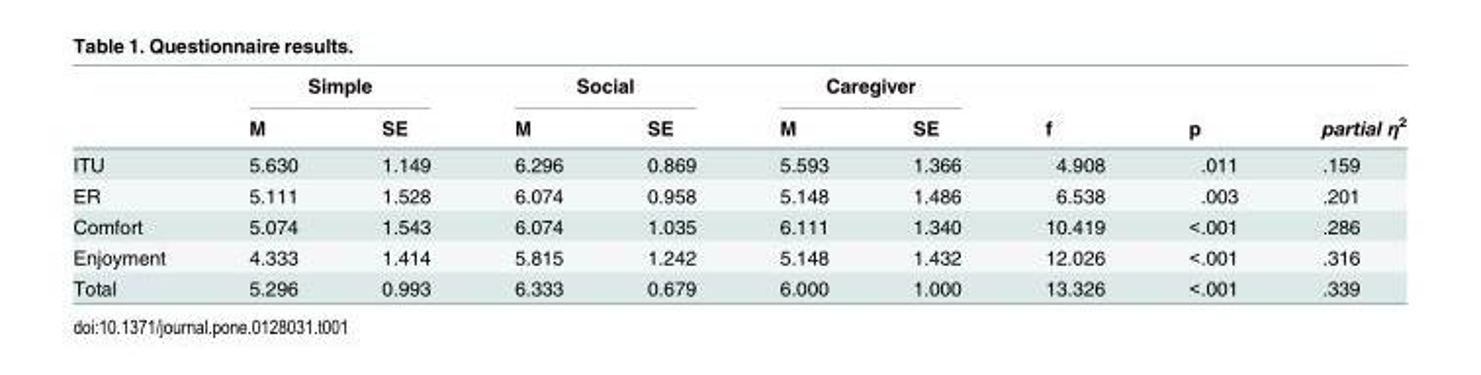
<table><thead><tr><td rowspan="2"></td><td colspan="2">Simple</td><td colspan="2">Social</td><td colspan="2">Caregiver</td><td rowspan="2">f</td><td rowspan="2">p</td><td rowspan="2">partial η<sup>2</sup></td></tr><tr><td>M</td><td>SE</td><td>M</td><td>SE</td><td>M</td><td>SE</td></tr></thead><tbody><tr><td>ITU</td><td>5.630</td><td>1.149</td><td>6.296</td><td>0.869</td><td>5.593</td><td>1.366</td><td>4.908</td><td>.011</td><td>.159</td></tr><tr><td>ER</td><td>5.111</td><td>1.528</td><td>6.074</td><td>0.958</td><td>5.148</td><td>1.486</td><td>6.538</td><td>.003</td><td>.201</td></tr><tr><td>Comfort</td><td>5.074</td><td>1.543</td><td>6.074</td><td>1.035</td><td>6.111</td><td>1.340</td><td>10.419</td><td>&lt;.001</td><td>.286</td></tr><tr><td>Enjoyment</td><td>4.333</td><td>1.414</td><td>5.815</td><td>1.242</td><td>5.148</td><td>1.432</td><td>12.026</td><td>&lt;.001</td><td>.316</td></tr><tr><td>Total</td><td>5.296</td><td>0.993</td><td>6.333</td><td>0.679</td><td>6.000</td><td>1.000</td><td>13.326</td><td>&lt;.001</td><td>.339</td></tr></tbody></table>